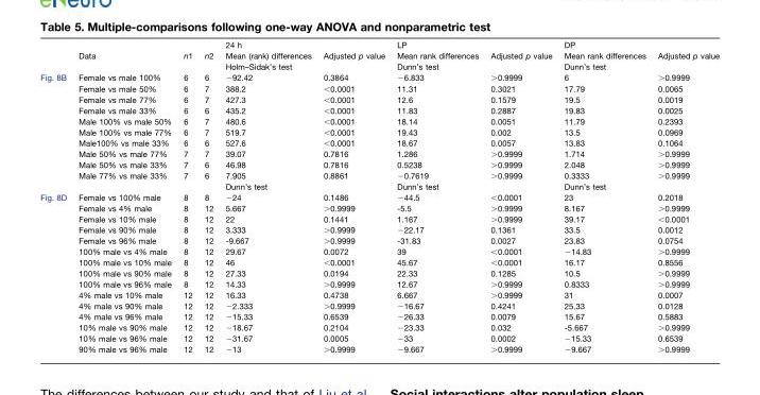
<table><thead><tr><td rowspan="3"></td><td rowspan="3">Data</td><td rowspan="3">n1</td><td rowspan="3">n2</td><td colspan="2">24 h</td><td colspan="2">LP</td><td colspan="2">DP</td></tr><tr><td>Mean (rank) differences</td><td>Adjusted p value</td><td>Mean rank differences</td><td>Adjusted p value</td><td>Mean rank differences</td><td>Adjusted p value</td></tr><tr><td colspan="2">Holm–Sidak’s test</td><td colspan="2">Dunn’s test</td><td colspan="2">Dunn’s test</td></tr></thead><tbody><tr><td rowspan="11">Fig. 8B</td><td>Female vs male 100%</td><td>6</td><td>6</td><td>−92.42</td><td>0.3864</td><td>−6.833</td><td>&gt;0.9999</td><td>6</td><td>&gt;0.9999</td></tr><tr><td>Female vs male 50%</td><td>6</td><td>7</td><td>388.2</td><td>&lt;0.0001</td><td>11.31</td><td>0.3021</td><td>17.79</td><td>0.0065</td></tr><tr><td>Female vs male 77%</td><td>6</td><td>7</td><td>427.3</td><td>&lt;0.0001</td><td>12.6</td><td>0.1579</td><td>19.5</td><td>0.0019</td></tr><tr><td>Female vs male 33%</td><td>6</td><td>6</td><td>435.2</td><td>&lt;0.0001</td><td>11.83</td><td>0.2887</td><td>19.83</td><td>0.0025</td></tr><tr><td>Male 100% vs male 50%</td><td>6</td><td>7</td><td>480.6</td><td>&lt;0.0001</td><td>18.14</td><td>0.0051</td><td>11.79</td><td>0.2393</td></tr><tr><td>Male 100% vs male 77%</td><td>6</td><td>7</td><td>519.7</td><td>&lt;0.0001</td><td>19.43</td><td>0.002</td><td>13.5</td><td>0.0969</td></tr><tr><td>Male100% vs male 33%</td><td>6</td><td>6</td><td>527.6</td><td>&lt;0.0001</td><td>18.67</td><td>0.0057</td><td>13.83</td><td>0.1064</td></tr><tr><td>Male 50% vs male 77%</td><td>7</td><td>7</td><td>39.07</td><td>0.7816</td><td>1.286</td><td>&gt;0.9999</td><td>1.714</td><td>&gt;0.9999</td></tr><tr><td>Male 50% vs male 33%</td><td>7</td><td>6</td><td>46.98</td><td>0.7816</td><td>0.5238</td><td>&gt;0.9999</td><td>2.048</td><td>&gt;0.9999</td></tr><tr><td>Male 77% vs male 33%</td><td>7</td><td>6</td><td>7.905</td><td>0.8861</td><td>−0.7619</td><td>&gt;0.9999</td><td>0.3333</td><td>&gt;0.9999</td></tr><tr><td></td><td></td><td></td><td colspan="2">Dunn’s test</td><td colspan="2">Dunn’s test</td><td colspan="2">Dunn’s test</td></tr><tr><td rowspan="15">Fig. 8D</td><td>Female vs 100% male</td><td>8</td><td>8</td><td>−24</td><td>0.1486</td><td>−44.5</td><td>&lt;0.0001</td><td>23</td><td>0.2018</td></tr><tr><td>Female vs 4% male</td><td>8</td><td>12</td><td>5.667</td><td>&gt;0.9999</td><td>-5.5</td><td>&gt;0.9999</td><td>8.167</td><td>&gt;0.9999</td></tr><tr><td>Female vs 10% male</td><td>8</td><td>12</td><td>22</td><td>0.1441</td><td>1.167</td><td>&gt;0.9999</td><td>39.17</td><td>&lt;0.0001</td></tr><tr><td>Female vs 90% male</td><td>8</td><td>12</td><td>3.333</td><td>&gt;0.9999</td><td>−22.17</td><td>0.1361</td><td>33.5</td><td>0.0012</td></tr><tr><td>Female vs 96% male</td><td>8</td><td>12</td><td>-9.667</td><td>&gt;0.9999</td><td>-31.83</td><td>0.0027</td><td>23.83</td><td>0.0754</td></tr><tr><td>100% male vs 4% male</td><td>8</td><td>12</td><td>29.67</td><td>0.0072</td><td>39</td><td>&lt;0.0001</td><td>−14.83</td><td>&gt;0.9999</td></tr><tr><td>100% male vs 10% male</td><td>8</td><td>12</td><td>46</td><td>&lt;0.0001</td><td>45.67</td><td>&lt;0.0001</td><td>16.17</td><td>0.8556</td></tr><tr><td>100% male vs 90% male</td><td>8</td><td>12</td><td>27.33</td><td>0.0194</td><td>22.33</td><td>0.1285</td><td>10.5</td><td>&gt;0.9999</td></tr><tr><td>100% male vs 96% male</td><td>8</td><td>12</td><td>14.33</td><td>&gt;0.9999</td><td>12.67</td><td>&gt;0.9999</td><td>0.8333</td><td>&gt;0.9999</td></tr><tr><td>4% male vs 10% male</td><td>12</td><td>12</td><td>16.33</td><td>0.4738</td><td>6.667</td><td>&gt;0.9999</td><td>31</td><td>0.0007</td></tr><tr><td>4% male vs 90% male</td><td>12</td><td>12</td><td>−2.333</td><td>&gt;0.9999</td><td>−16.67</td><td>0.4241</td><td>25.33</td><td>0.0128</td></tr><tr><td>4% male vs 96% male</td><td>12</td><td>12</td><td>−15.33</td><td>0.6539</td><td>−26.33</td><td>0.0079</td><td>15.67</td><td>0.5883</td></tr><tr><td>10% male vs 90% male</td><td>12</td><td>12</td><td>−18.67</td><td>0.2104</td><td>−23.33</td><td>0.032</td><td>-5.667</td><td>&gt;0.9999</td></tr><tr><td>10% male vs 96% male</td><td>12</td><td>12</td><td>−31.67</td><td>0.0005</td><td>−33</td><td>0.0002</td><td>−15.33</td><td>0.6539</td></tr><tr><td>90% male vs 96% male</td><td>12</td><td>12</td><td>−13</td><td>&gt;0.9999</td><td>−9.667</td><td>&gt;0.9999</td><td>−9.667</td><td>&gt;0.9999</td></tr></tbody></table>